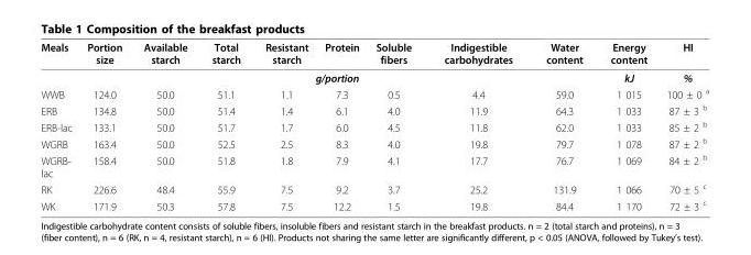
<table><thead><tr><td>Meals</td><td>Portion size</td><td>Available starch</td><td>Total starch</td><td>Resistant starch</td><td>Protein</td><td>Soluble fibers</td><td>Indigestible carbohydrates</td><td>Water content</td><td>Energy content</td><td>HI</td></tr></thead><tbody><tr><td></td><td colspan="8">g/portion</td><td>kJ</td><td>%</td></tr><tr><td>WWB</td><td>124.0</td><td>50.0</td><td>51.1</td><td>1.1</td><td>7.3</td><td>0.5</td><td>4.4</td><td>59.0</td><td>1 015</td><td>100 ± 0 <sup>a</sup></td></tr><tr><td>ERB</td><td>134.8</td><td>50.0</td><td>51.4</td><td>1.4</td><td>6.1</td><td>4.0</td><td>11.9</td><td>64.3</td><td>1 033</td><td>87 ± 3 <sup>b</sup></td></tr><tr><td>ERB-lac</td><td>133.1</td><td>50.0</td><td>51.7</td><td>1.7</td><td>6.0</td><td>4.5</td><td>11.8</td><td>62.0</td><td>1 033</td><td>85 ± 2 <sup>b</sup></td></tr><tr><td>WGRB</td><td>163.4</td><td>50.0</td><td>52.5</td><td>2.5</td><td>8.3</td><td>4.0</td><td>19.8</td><td>79.7</td><td>1 078</td><td>87 ± 2 <sup>b</sup></td></tr><tr><td>WGRB- lac</td><td>158.4</td><td>50.0</td><td>51.8</td><td>1.8</td><td>7.9</td><td>4.1</td><td>17.7</td><td>76.7</td><td>1 069</td><td>84 ± 2 <sup>b</sup></td></tr><tr><td>RK</td><td>226.6</td><td>48.4</td><td>55.9</td><td>7.5</td><td>9.2</td><td>3.7</td><td>25.2</td><td>131.9</td><td>1 066</td><td>70 ± 5 <sup>c</sup></td></tr><tr><td>WK</td><td>171.9</td><td>50.3</td><td>57.8</td><td>7.5</td><td>12.2</td><td>1.5</td><td>19.8</td><td>84.4</td><td>1 170</td><td>72 ± 3 <sup>c</sup></td></tr></tbody></table>